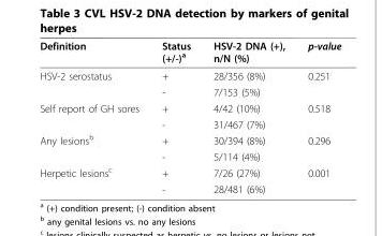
<table><thead><tr><td>Definition</td><td>Status (+/-)<sup>a</sup></td><td>HSV-2 DNA (+), n/N (%)</td><td>p-value</td></tr></thead><tbody><tr><td rowspan="2">HSV-2 serostatus</td><td>+</td><td>28/356 (8%)</td><td>0.251</td></tr><tr><td>-</td><td>7/153 (5%)</td><td></td></tr><tr><td rowspan="2">Self report of GH sores</td><td>+</td><td>4/42 (10%)</td><td>0.518</td></tr><tr><td>-</td><td>31/467 (7%)</td><td></td></tr><tr><td rowspan="2">Any lesions<sup>b</sup></td><td>+</td><td>30/394 (8%)</td><td>0.296</td></tr><tr><td>-</td><td>5/114 (4%)</td><td></td></tr><tr><td rowspan="2">Herpetic lesions<sup>c</sup></td><td>+</td><td>7/26 (27%)</td><td>0.001</td></tr><tr><td>-</td><td>28/481 (6%)</td><td></td></tr></tbody></table>